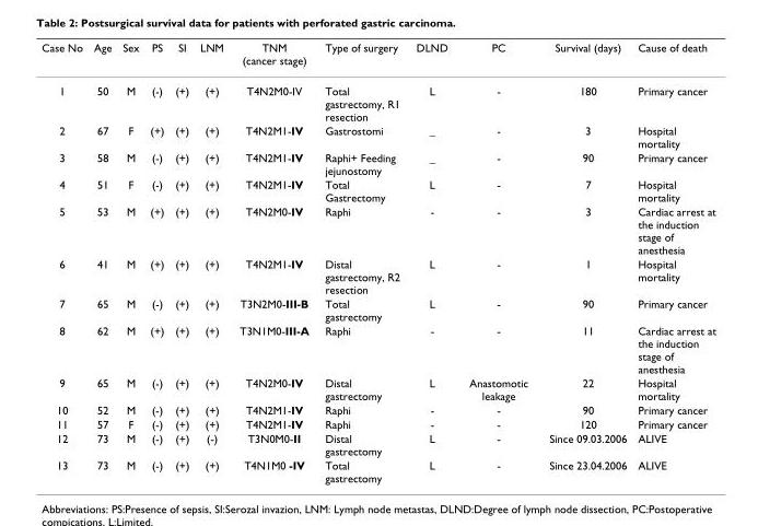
<table><thead><tr><td>Case No</td><td>Age</td><td>Sex</td><td>PS</td><td>SI</td><td>LNM</td><td>TNM (cancer stage)</td><td>Type of surgery</td><td>DLND</td><td>PC</td><td>Survival (days)</td><td>Cause of death</td></tr></thead><tbody><tr><td>1</td><td>50</td><td>M</td><td>(-)</td><td>(+)</td><td>(+)</td><td>T4N2M0-IV</td><td>Total gastrectomy, R1 resection</td><td>L</td><td>-</td><td>180</td><td>Primary cancer</td></tr><tr><td>2</td><td>67</td><td>F</td><td>(+)</td><td>(+)</td><td>(+)</td><td>T4N2M1-IV</td><td>Gastrostomi</td><td>_</td><td>-</td><td>3</td><td>Hospital mortality</td></tr><tr><td>3</td><td>58</td><td>M</td><td>(-)</td><td>(+)</td><td>(+)</td><td>T4N2M1-IV</td><td>Raphi+ Feeding jejunostomy</td><td>_</td><td>-</td><td>90</td><td>Primary cancer</td></tr><tr><td>4</td><td>51</td><td>F</td><td>(-)</td><td>(+)</td><td>(+)</td><td>T4N2M1-IV</td><td>Total Gastrectomy</td><td>L</td><td>-</td><td>7</td><td>Hospital mortality</td></tr><tr><td>5</td><td>53</td><td>M</td><td>(+)</td><td>(+)</td><td>(+)</td><td>T4N2M0-IV</td><td>Raphi</td><td>-</td><td>-</td><td>3</td><td>Cardiac arrest at the induction stage of anesthesia</td></tr><tr><td>6</td><td>41</td><td>M</td><td>(+)</td><td>(+)</td><td>(+)</td><td>T4N2M1-IV</td><td>Distal gastrectomy, R2 resection</td><td>L</td><td>-</td><td>1</td><td>Hospital mortality</td></tr><tr><td>7</td><td>65</td><td>M</td><td>(-)</td><td>(+)</td><td>(+)</td><td>T3N2M0-III-B</td><td>Total gastrectomy</td><td>L</td><td>-</td><td>90</td><td>Primary cancer</td></tr><tr><td>8</td><td>62</td><td>M</td><td>(+)</td><td>(+)</td><td>(+)</td><td>T3N1M0-III-A</td><td>Raphi</td><td>-</td><td>-</td><td>11</td><td>Cardiac arrest at the induction stage of anesthesia</td></tr><tr><td>9</td><td>65</td><td>M</td><td>(-)</td><td>(+)</td><td>(+)</td><td>T4N2M0-IV</td><td>Distal gastrectomy</td><td>L</td><td>Anastomotic leakage</td><td>22</td><td>Hospital mortality</td></tr><tr><td>10</td><td>52</td><td>M</td><td>(-)</td><td>(+)</td><td>(+)</td><td>T4N2M1-IV</td><td>Raphi</td><td>-</td><td>-</td><td>90</td><td>Primary cancer</td></tr><tr><td>11</td><td>57</td><td>F</td><td>(-)</td><td>(+)</td><td>(+)</td><td>T4N2M1-IV</td><td>Raphi</td><td>-</td><td>-</td><td>120</td><td>Primary cancer</td></tr><tr><td>12</td><td>73</td><td>M</td><td>(-)</td><td>(+)</td><td>(-)</td><td>T3N0M0-II</td><td>Distal gastrectomy</td><td>L</td><td>-</td><td>Since 09.03.2006</td><td>ALIVE</td></tr><tr><td>13</td><td>73</td><td>M</td><td>(-)</td><td>(+)</td><td>(+)</td><td>T4N1M0 -IV</td><td>Total gastrectomy</td><td>L</td><td>-</td><td>Since 23.04.2006</td><td>ALIVE</td></tr></tbody></table>